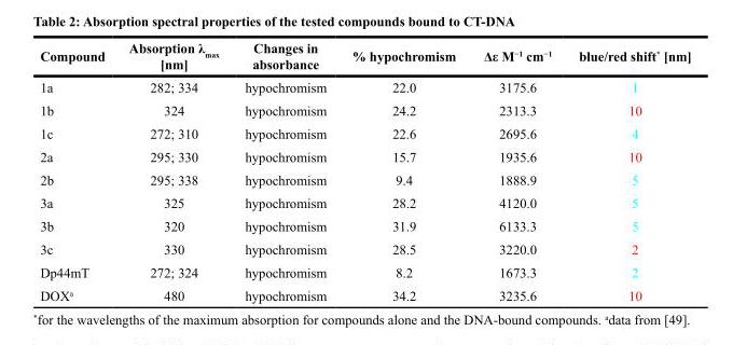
<table><thead><tr><td>Compound</td><td>Absorption λ<sub>max</sub> [nm]</td><td>Changes in absorbance</td><td>% hypochromism</td><td>Δε M<sup>−1</sup> cm<sup>−1</sup></td><td>blue/red shift* [nm]</td></tr></thead><tbody><tr><td>1a</td><td>282; 334</td><td>hypochromism</td><td>22.0</td><td>3175.6</td><td>1</td></tr><tr><td>1b</td><td>324</td><td>hypochromism</td><td>24.2</td><td>2313.3</td><td>10</td></tr><tr><td>1c</td><td>272; 310</td><td>hypochromism</td><td>22.6</td><td>2695.6</td><td>4</td></tr><tr><td>2a</td><td>295; 330</td><td>hypochromism</td><td>15.7</td><td>1935.6</td><td>10</td></tr><tr><td>2b</td><td>295; 338</td><td>hypochromism</td><td>9.4</td><td>1888.9</td><td>5</td></tr><tr><td>3a</td><td>325</td><td>hypochromism</td><td>28.2</td><td>4120.0</td><td>5</td></tr><tr><td>3b</td><td>320</td><td>hypochromism</td><td>31.9</td><td>6133.3</td><td>5</td></tr><tr><td>3c</td><td>330</td><td>hypochromism</td><td>28.5</td><td>3220.0</td><td>2</td></tr><tr><td>Dp44mT</td><td>272; 324</td><td>hypochromism</td><td>8.2</td><td>1673.3</td><td>2</td></tr><tr><td>DOX<sup>a</sup></td><td>480</td><td>hypochromism</td><td>34.2</td><td>3235.6</td><td>10</td></tr></tbody></table>